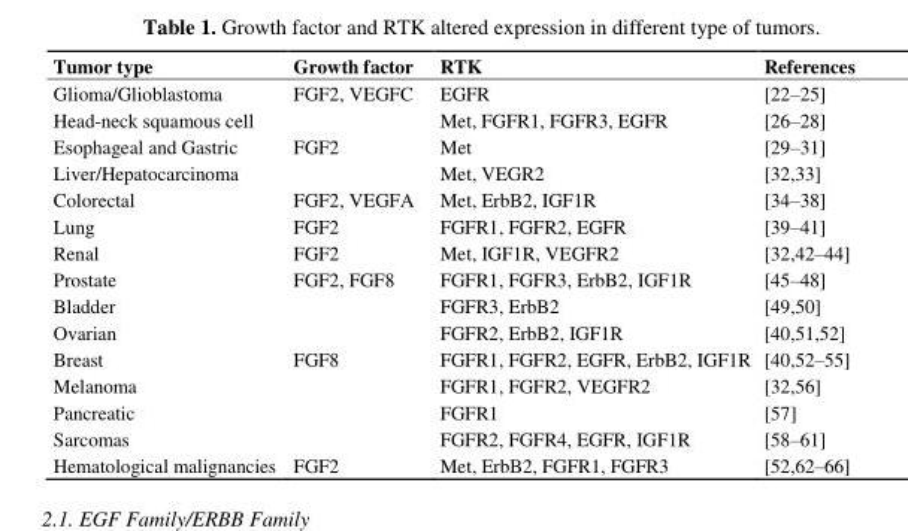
<table><thead><tr><td>Tumor type</td><td>Growth factor</td><td>RTK</td><td>References</td></tr></thead><tbody><tr><td>Glioma/Glioblastoma</td><td>FGF2, VEGFC</td><td>EGFR</td><td>[22–25]</td></tr><tr><td>Head-neck squamous cell</td><td></td><td>Met, FGFR1, FGFR3, EGFR</td><td>[26–28]</td></tr><tr><td>Esophageal and Gastric</td><td>FGF2</td><td>Met</td><td>[29–31]</td></tr><tr><td>Liver/Hepatocarcinoma</td><td></td><td>Met, VEGR2</td><td>[32,33]</td></tr><tr><td>Colorectal</td><td>FGF2, VEGFA</td><td>Met, ErbB2, IGF1R</td><td>[34–38]</td></tr><tr><td>Lung</td><td>FGF2</td><td>FGFR1, FGFR2, EGFR</td><td>[39–41]</td></tr><tr><td>Renal</td><td>FGF2</td><td>Met, IGF1R, VEGFR2</td><td>[32,42–44]</td></tr><tr><td>Prostate</td><td>FGF2, FGF8</td><td>FGFR1, FGFR3, ErbB2, IGF1R</td><td>[45–48]</td></tr><tr><td>Bladder</td><td></td><td>FGFR3, ErbB2</td><td>[49,50]</td></tr><tr><td>Ovarian</td><td></td><td>FGFR2, ErbB2, IGF1R</td><td>[40,51,52]</td></tr><tr><td>Breast</td><td>FGF8</td><td>FGFR1, FGFR2, EGFR, ErbB2, IGF1R</td><td>[40,52–55]</td></tr><tr><td>Melanoma</td><td></td><td>FGFR1, FGFR2, VEGFR2</td><td>[32,56]</td></tr><tr><td>Pancreatic</td><td></td><td>FGFR1</td><td>[57]</td></tr><tr><td>Sarcomas</td><td></td><td>FGFR2, FGFR4, EGFR, IGF1R</td><td>[58–61]</td></tr><tr><td>Hematological malignancies</td><td>FGF2</td><td>Met, ErbB2, FGFR1, FGFR3</td><td>[52,62–66]</td></tr></tbody></table>